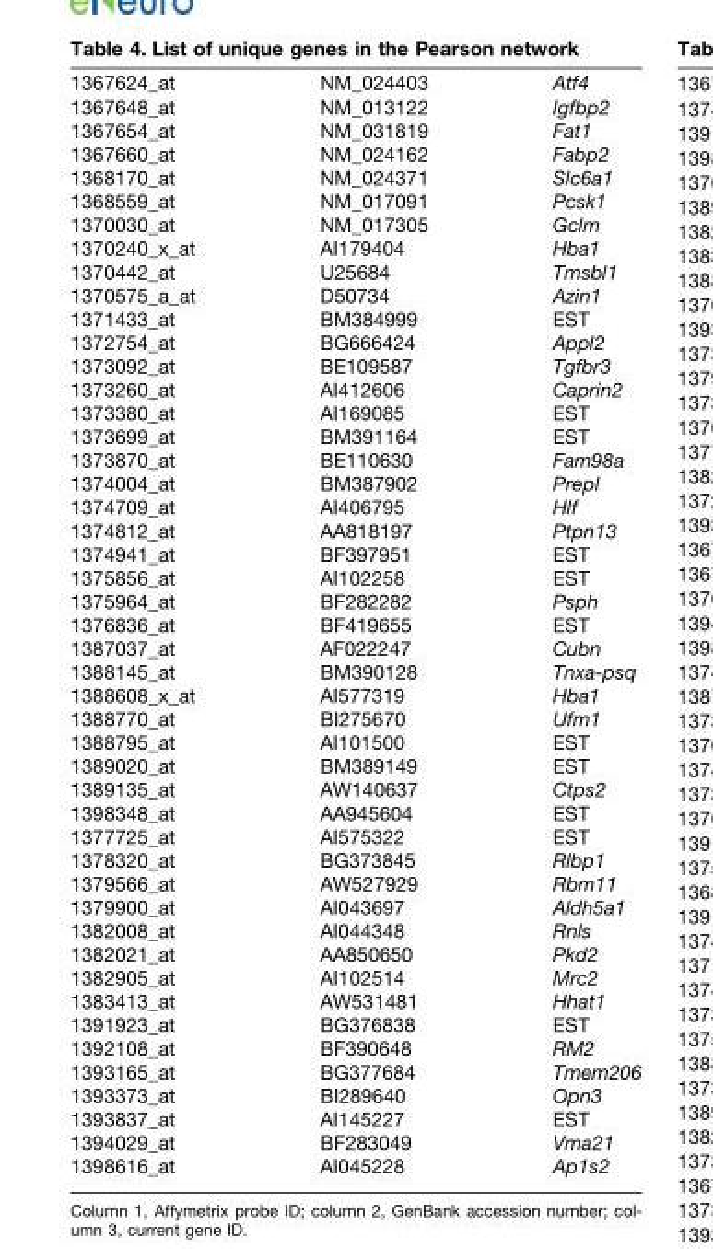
<table><tbody><tr><td>1367624_at</td><td>NM_024403</td><td>Atf4</td></tr><tr><td>1367648_at</td><td>NM_013122</td><td>Igfbp2</td></tr><tr><td>1367654_at</td><td>NM_031819</td><td>Fat1</td></tr><tr><td>1367660_at</td><td>NM_024162</td><td>Fabp2</td></tr><tr><td>1368170_at</td><td>NM_024371</td><td>Slc6a1</td></tr><tr><td>1368559_at</td><td>NM_017091</td><td>Pcsk1</td></tr><tr><td>1370030_at</td><td>NM_017305</td><td>Gclm</td></tr><tr><td>1370240_x_at</td><td>AI179404</td><td>Hba1</td></tr><tr><td>1370442_at</td><td>U25684</td><td>Tmsbl1</td></tr><tr><td>1370575_a_at</td><td>D50734</td><td>Azin1</td></tr><tr><td>1371433_at</td><td>BM384999</td><td>EST</td></tr><tr><td>1372754_at</td><td>BG666424</td><td>Appl2</td></tr><tr><td>1373092_at</td><td>BE109587</td><td>Tgfbr3</td></tr><tr><td>1373260_at</td><td>AI412606</td><td>Caprin2</td></tr><tr><td>1373380_at</td><td>AI169085</td><td>EST</td></tr><tr><td>1373699_at</td><td>BM391164</td><td>EST</td></tr><tr><td>1373870_at</td><td>BE110630</td><td>Fam98a</td></tr><tr><td>1374004_at</td><td>BM387902</td><td>Prepl</td></tr><tr><td>1374709_at</td><td>AI406795</td><td>Hlf</td></tr><tr><td>1374812_at</td><td>AA818197</td><td>Ptpn13</td></tr><tr><td>1374941_at</td><td>BF397951</td><td>EST</td></tr><tr><td>1375856_at</td><td>AI102258</td><td>EST</td></tr><tr><td>1375964_at</td><td>BF282282</td><td>Psph</td></tr><tr><td>1376836_at</td><td>BF419655</td><td>EST</td></tr><tr><td>1387037_at</td><td>AF022247</td><td>Cubn</td></tr><tr><td>1388145_at</td><td>BM390128</td><td>Tnxa-psq</td></tr><tr><td>1388608_x_at</td><td>AI577319</td><td>Hba1</td></tr><tr><td>1388770_at</td><td>BI275670</td><td>Ufm1</td></tr><tr><td>1388795_at</td><td>AI101500</td><td>EST</td></tr><tr><td>1389020_at</td><td>BM389149</td><td>EST</td></tr><tr><td>1389135_at</td><td>AW140637</td><td>Ctps2</td></tr><tr><td>1398348_at</td><td>AA945604</td><td>EST</td></tr><tr><td>1377725_at</td><td>AI575322</td><td>EST</td></tr><tr><td>1378320_at</td><td>BG373845</td><td>Rlbp1</td></tr><tr><td>1379566_at</td><td>AW527929</td><td>Rbm11</td></tr><tr><td>1379900_at</td><td>AI043697</td><td>Aldh5a1</td></tr><tr><td>1382008_at</td><td>AI044348</td><td>Rnls</td></tr><tr><td>1382021_at</td><td>AA850650</td><td>Pkd2</td></tr><tr><td>1382905_at</td><td>AI102514</td><td>Mrc2</td></tr><tr><td>1383413_at</td><td>AW531481</td><td>Hhat1</td></tr><tr><td>1391923_at</td><td>BG376838</td><td>EST</td></tr><tr><td>1392108_at</td><td>BF390648</td><td>RM2</td></tr><tr><td>1393165_at</td><td>BG377684</td><td>Tmem206</td></tr><tr><td>1393373_at</td><td>BI289640</td><td>Opn3</td></tr><tr><td>1393837_at</td><td>AI145227</td><td>EST</td></tr><tr><td>1394029_at</td><td>BF283049</td><td>Vma21</td></tr><tr><td>1398616_at</td><td>AI045228</td><td>Ap1s2</td></tr></tbody></table>